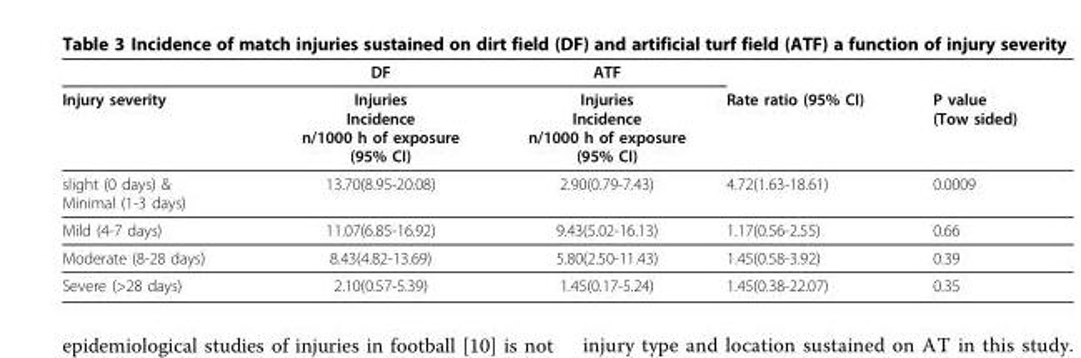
<table><thead><tr><td rowspan="2">Injury severity</td><td rowspan="2">DF Injuries Incidence n/1000 h of exposure (95% CI)</td><td rowspan="2">ATF Injuries Incidence n/1000 h of exposure (95% CI)</td><td rowspan="2">Rate ratio (95% CI)</td><td rowspan="2">P value (Tow sided)</td></tr><tr></tr></thead><tbody><tr><td>slight (0 days) &amp; Minimal (1-3 days)</td><td>13.70(8.95-20.08)</td><td>2.90(0.79-7.43)</td><td>4.72(1.63-18.61)</td><td>0.0009</td></tr><tr><td>Mild (4-7 days)</td><td>11.07(6.85-16.92)</td><td>9.43(5.02-16.13)</td><td>1.17(0.56-2.55)</td><td>0.66</td></tr><tr><td>Moderate (8-28 days)</td><td>8.43(4.82-13.69)</td><td>5.80(2.50-11.43)</td><td>1.45(0.58-3.92)</td><td>0.39</td></tr><tr><td>Severe (&gt;28 days)</td><td>2.10(0.57-5.39)</td><td>1.45(0.17-5.24)</td><td>1.45(0.38-22.07)</td><td>0.35</td></tr></tbody></table>